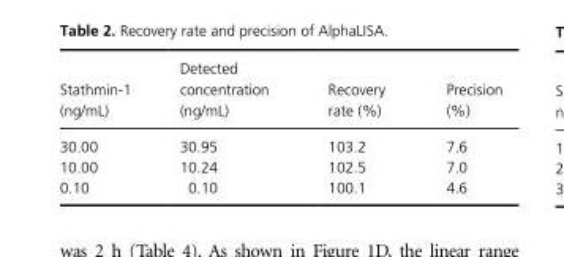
<table><thead><tr><td>Stathmin- 1 (ng/mL)</td><td>Detected concentration (ng/mL)</td><td>Recovery rate (%)</td><td>Precision (%)</td></tr></thead><tbody><tr><td>30.00</td><td>30.95</td><td>103.2</td><td>7.6</td></tr><tr><td>10.00</td><td>10.24</td><td>102.5</td><td>7.0</td></tr><tr><td>0.10</td><td>0.10</td><td>100.1</td><td>4.6</td></tr></tbody></table>